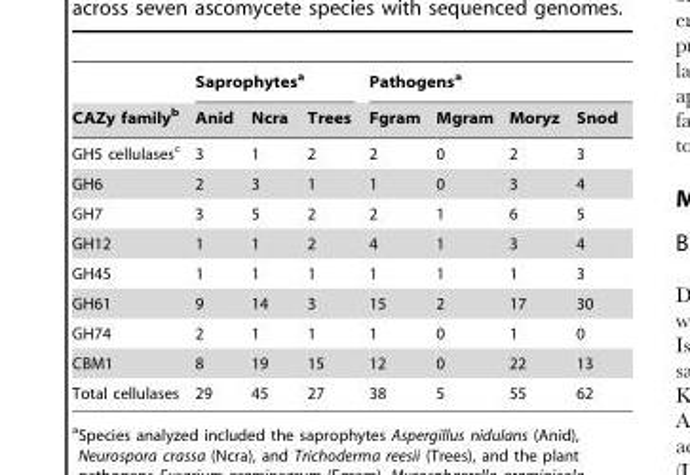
<table><thead><tr><td rowspan="2">CAZy family<sup>b</sup></td><td colspan="3">Saprophytes<sup>a</sup></td><td colspan="4">Pathogens<sup>a</sup></td></tr><tr><td>Anid</td><td>Ncra</td><td>Trees</td><td>Fgram</td><td>Mgram</td><td>Moryz</td><td>Snod</td></tr></thead><tbody><tr><td>GH5 cellulases<sup>c</sup></td><td>3</td><td>1</td><td>2</td><td>2</td><td>0</td><td>2</td><td>3</td></tr><tr><td>GH6</td><td>2</td><td>3</td><td>1</td><td>1</td><td>0</td><td>3</td><td>4</td></tr><tr><td>GH7</td><td>3</td><td>5</td><td>2</td><td>2</td><td>1</td><td>6</td><td>5</td></tr><tr><td>GH12</td><td>1</td><td>1</td><td>2</td><td>4</td><td>1</td><td>3</td><td>4</td></tr><tr><td>GH45</td><td>1</td><td>1</td><td>1</td><td>1</td><td>1</td><td>1</td><td>3</td></tr><tr><td>GH61</td><td>9</td><td>14</td><td>3</td><td>15</td><td>2</td><td>17</td><td>30</td></tr><tr><td>GH74</td><td>2</td><td>1</td><td>1</td><td>1</td><td>0</td><td>1</td><td>0</td></tr><tr><td>CBM1</td><td>8</td><td>19</td><td>15</td><td>12</td><td>0</td><td>22</td><td>13</td></tr><tr><td>Total cellulases</td><td>29</td><td>45</td><td>27</td><td>38</td><td>5</td><td>55</td><td>62</td></tr></tbody></table>